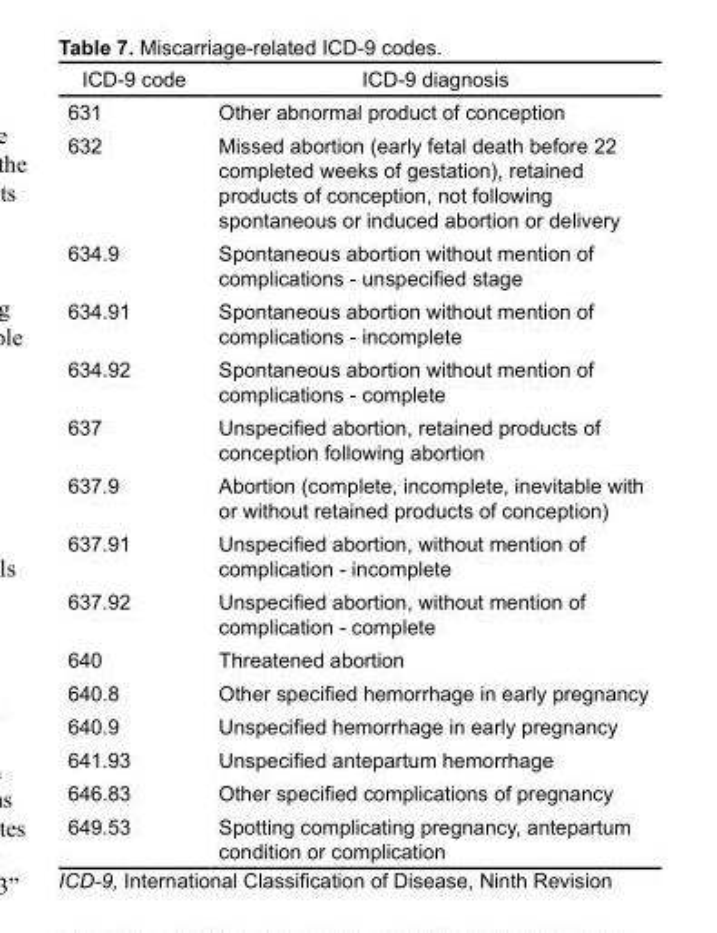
<table><thead><tr><td>ICD-9 code</td><td>ICD-9 diagnosis</td></tr></thead><tbody><tr><td>631</td><td>Other abnormal product of conception</td></tr><tr><td>632</td><td>Missed abortion (early fetal death before 22 completed weeks of gestation), retained products of conception, not following spontaneous or induced abortion or delivery</td></tr><tr><td>634.9</td><td>Spontaneous abortion without mention of complications - unspecified stage</td></tr><tr><td>634.91</td><td>Spontaneous abortion without mention of complications - incomplete</td></tr><tr><td>634.92</td><td>Spontaneous abortion without mention of complications - complete</td></tr><tr><td>637</td><td>Unspecified abortion, retained products of conception following abortion</td></tr><tr><td>637.9</td><td>Abortion (complete, incomplete, inevitable with or without retained products of conception)</td></tr><tr><td>637.91</td><td>Unspecified abortion, without mention of complication - incomplete</td></tr><tr><td>637.92</td><td>Unspecified abortion, without mention of complication - complete</td></tr><tr><td>640</td><td>Threatened abortion</td></tr><tr><td>640.8</td><td>Other specified hemorrhage in early pregnancy</td></tr><tr><td>640.9</td><td>Unspecified hemorrhage in early pregnancy</td></tr><tr><td>641.93</td><td>Unspecified antepartum hemorrhage</td></tr><tr><td>646.83</td><td>Other specified complications of pregnancy</td></tr><tr><td>649.53</td><td>Spotting complicating pregnancy, antepartum condition or complication</td></tr></tbody></table>